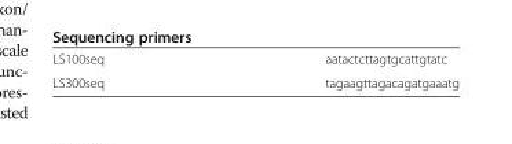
<table><tbody><tr><td>LS100seq</td><td>aatactcttagtgcattgtatc</td></tr><tr><td>LS300seq</td><td>tagaagttagacagatgaaatg</td></tr></tbody></table>